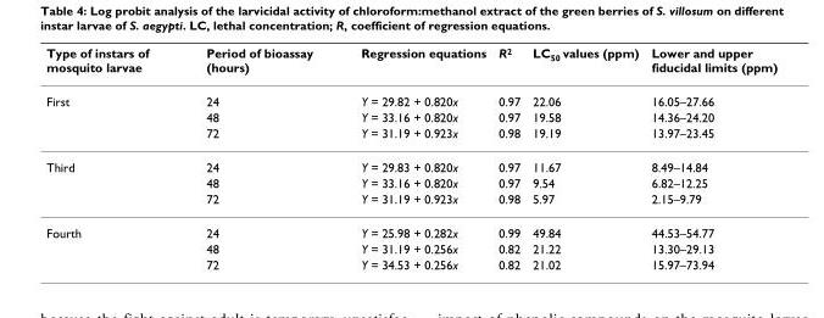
<table><thead><tr><td>Type of instars of mosquito larvae</td><td>Period of bioassay (hours)</td><td>Regression equations</td><td>R<sup>2</sup></td><td>LC<sub>50</sub> values (ppm)</td><td>Lower and upper fiducidal limits (ppm)</td></tr></thead><tbody><tr><td rowspan="3">First</td><td>24</td><td>Y = 29.82 + 0.820x</td><td>0.97</td><td>22.06</td><td>16.05–27.66</td></tr><tr><td>48</td><td>Y = 33.16 + 0.820x</td><td>0.97</td><td>19.58</td><td>14.36–24.20</td></tr><tr><td>72</td><td>Y = 31.19 + 0.923x</td><td>0.98</td><td>19.19</td><td>13.97–23.45</td></tr><tr><td rowspan="3">Third</td><td>24</td><td>Y = 29.83 + 0.820x</td><td>0.97</td><td>11.67</td><td>8.49–14.84</td></tr><tr><td>48</td><td>Y = 33.16 + 0.820x</td><td>0.97</td><td>9.54</td><td>6.82–12.25</td></tr><tr><td>72</td><td>Y = 31.19 + 0.923x</td><td>0.98</td><td>5.97</td><td>2.15–9.79</td></tr><tr><td rowspan="3">Fourth</td><td>24</td><td>Y = 25.98 + 0.282x</td><td>0.99</td><td>49.84</td><td>44.53–54.77</td></tr><tr><td>48</td><td>Y = 31.19 + 0.256x</td><td>0.82</td><td>21.22</td><td>13.30–29.13</td></tr><tr><td>72</td><td>Y = 34.53 + 0.256x</td><td>0.82</td><td>21.02</td><td>15.97–73.94</td></tr></tbody></table>